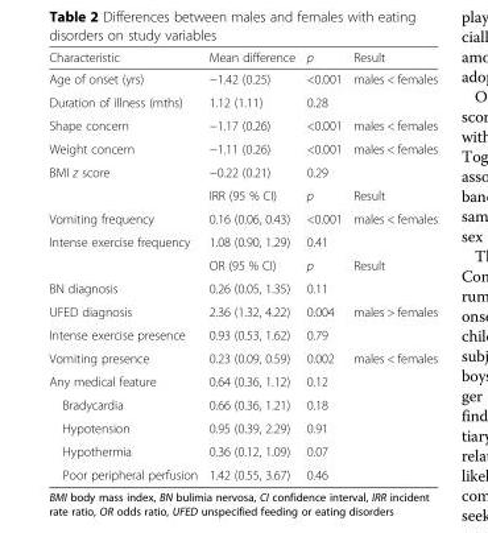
<table><thead><tr><td>Characteristic</td><td>Mean difference</td><td>p</td><td>Result</td></tr></thead><tbody><tr><td>Age of onset (yrs)</td><td>−1.42 (0.25)</td><td>&lt;0.001</td><td>males &lt; females</td></tr><tr><td>Duration of illness (mths)</td><td>1.12 (1.11)</td><td>0.28</td><td></td></tr><tr><td>Shape concern</td><td>−1.17 (0.26)</td><td>&lt;0.001</td><td>males &lt; females</td></tr><tr><td>Weight concern</td><td>−1.11 (0.26)</td><td>&lt;0.001</td><td>males &lt; females</td></tr><tr><td rowspan="2">BMI z score</td><td>−0.22 (0.21)</td><td>0.29</td><td></td></tr><tr><td>IRR (95 % CI)</td><td>p</td><td>Result</td></tr><tr><td>Vomiting frequency</td><td>0.16 (0.06, 0.43)</td><td>&lt;0.001</td><td>males &lt; females</td></tr><tr><td rowspan="2">Intense exercise frequency</td><td>1.08 (0.90, 1.29)</td><td>0.41</td><td></td></tr><tr><td>OR (95 % CI)</td><td>p</td><td>Result</td></tr><tr><td>BN diagnosis</td><td>0.26 (0.05, 1.35)</td><td>0.11</td><td></td></tr><tr><td>UFED diagnosis</td><td>2.36 (1.32, 4.22)</td><td>0.004</td><td>males &gt; females</td></tr><tr><td>Intense exercise presence</td><td>0.93 (0.53, 1.62)</td><td>0.79</td><td></td></tr><tr><td>Vomiting presence</td><td>0.23 (0.09, 0.59)</td><td>0.002</td><td>males &lt; females</td></tr><tr><td>Any medical feature</td><td>0.64 (0.36, 1.12)</td><td>0.12</td><td></td></tr><tr><td>Bradycardia</td><td>0.66 (0.36, 1.21)</td><td>0.18</td><td></td></tr><tr><td>Hypotension</td><td>0.95 (0.39, 2.29)</td><td>0.91</td><td></td></tr><tr><td>Hypothermia</td><td>0.36 (0.12, 1.09)</td><td>0.07</td><td></td></tr><tr><td>Poor peripheral perfusion</td><td>1.42 (0.55, 3.67)</td><td>0.46</td><td></td></tr></tbody></table>